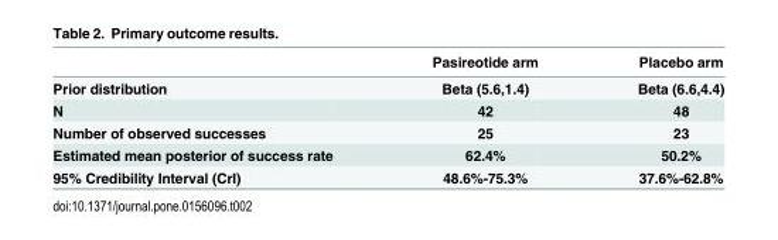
<table><thead><tr><td></td><td>Pasireotide arm</td><td>Placebo arm</td></tr></thead><tbody><tr><td>Prior distribution</td><td>Beta (5.6,1.4)</td><td>Beta (6.6,4.4)</td></tr><tr><td>N</td><td>42</td><td>48</td></tr><tr><td>Number of observed successes</td><td>25</td><td>23</td></tr><tr><td>Estimated mean posterior of success rate</td><td>62.4%</td><td>50.2%</td></tr><tr><td>95% Credibility Interval (CrI)</td><td>48.6%-75.3%</td><td>37.6%-62.8%</td></tr></tbody></table>